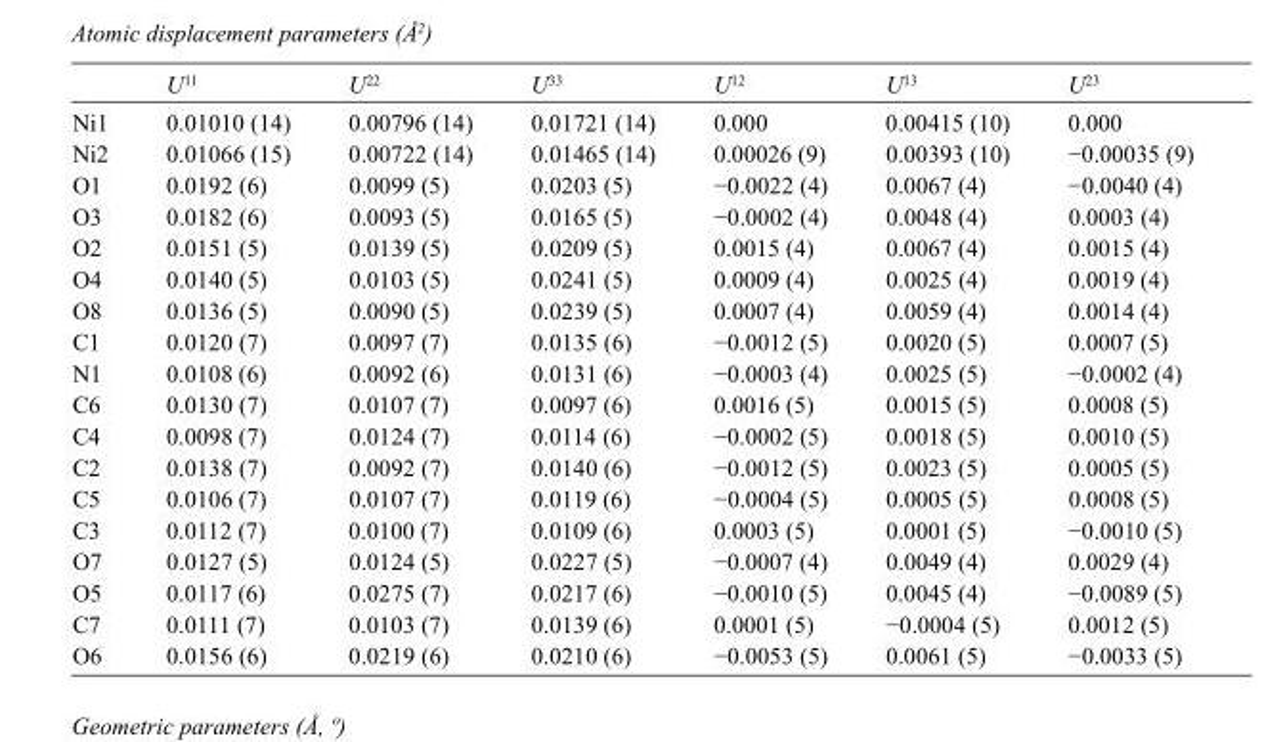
<table><thead><tr><td></td><td>U<sup>11</sup></td><td>U<sup>22</sup></td><td>U<sup>33</sup></td><td>U<sup>12</sup></td><td>U<sup>13</sup></td><td>U<sup>23</sup></td></tr></thead><tbody><tr><td>Ni1</td><td>0.01010 (14)</td><td>0.00796 (14)</td><td>0.01721 (14)</td><td>0.000</td><td>0.00415 (10)</td><td>0.000</td></tr><tr><td>Ni2</td><td>0.01066 (15)</td><td>0.00722 (14)</td><td>0.01465 (14)</td><td>0.00026 (9)</td><td>0.00393 (10)</td><td>−0.00035 (9)</td></tr><tr><td>O1</td><td>0.0192 (6)</td><td>0.0099 (5)</td><td>0.0203 (5)</td><td>−0.0022 (4)</td><td>0.0067 (4)</td><td>−0.0040 (4)</td></tr><tr><td>O3</td><td>0.0182 (6)</td><td>0.0093 (5)</td><td>0.0165 (5)</td><td>−0.0002 (4)</td><td>0.0048 (4)</td><td>0.0003 (4)</td></tr><tr><td>O2</td><td>0.0151 (5)</td><td>0.0139 (5)</td><td>0.0209 (5)</td><td>0.0015 (4)</td><td>0.0067 (4)</td><td>0.0015 (4)</td></tr><tr><td>O4</td><td>0.0140 (5)</td><td>0.0103 (5)</td><td>0.0241 (5)</td><td>0.0009 (4)</td><td>0.0025 (4)</td><td>0.0019 (4)</td></tr><tr><td>O8</td><td>0.0136 (5)</td><td>0.0090 (5)</td><td>0.0239 (5)</td><td>0.0007 (4)</td><td>0.0059 (4)</td><td>0.0014 (4)</td></tr><tr><td>C1</td><td>0.0120 (7)</td><td>0.0097 (7)</td><td>0.0135 (6)</td><td>−0.0012 (5)</td><td>0.0020 (5)</td><td>0.0007 (5)</td></tr><tr><td>N1</td><td>0.0108 (6)</td><td>0.0092 (6)</td><td>0.0131 (6)</td><td>−0.0003 (4)</td><td>0.0025 (5)</td><td>−0.0002 (4)</td></tr><tr><td>C6</td><td>0.0130 (7)</td><td>0.0107 (7)</td><td>0.0097 (6)</td><td>0.0016 (5)</td><td>0.0015 (5)</td><td>0.0008 (5)</td></tr><tr><td>C4</td><td>0.0098 (7)</td><td>0.0124 (7)</td><td>0.0114 (6)</td><td>−0.0002 (5)</td><td>0.0018 (5)</td><td>0.0010 (5)</td></tr><tr><td>C2</td><td>0.0138 (7)</td><td>0.0092 (7)</td><td>0.0140 (6)</td><td>−0.0012 (5)</td><td>0.0023 (5)</td><td>0.0005 (5)</td></tr><tr><td>C5</td><td>0.0106 (7)</td><td>0.0107 (7)</td><td>0.0119 (6)</td><td>−0.0004 (5)</td><td>0.0005 (5)</td><td>0.0008 (5)</td></tr><tr><td>C3</td><td>0.0112 (7)</td><td>0.0100 (7)</td><td>0.0109 (6)</td><td>0.0003 (5)</td><td>0.0001 (5)</td><td>−0.0010 (5)</td></tr><tr><td>O7</td><td>0.0127 (5)</td><td>0.0124 (5)</td><td>0.0227 (5)</td><td>−0.0007 (4)</td><td>0.0049 (4)</td><td>0.0029 (4)</td></tr><tr><td>O5</td><td>0.0117 (6)</td><td>0.0275 (7)</td><td>0.0217 (6)</td><td>−0.0010 (5)</td><td>0.0045 (4)</td><td>−0.0089 (5)</td></tr><tr><td>C7</td><td>0.0111 (7)</td><td>0.0103 (7)</td><td>0.0139 (6)</td><td>0.0001 (5)</td><td>−0.0004 (5)</td><td>0.0012 (5)</td></tr><tr><td>O6</td><td>0.0156 (6)</td><td>0.0219 (6)</td><td>0.0210 (6)</td><td>−0.0053 (5)</td><td>0.0061 (5)</td><td>−0.0033 (5)</td></tr></tbody></table>